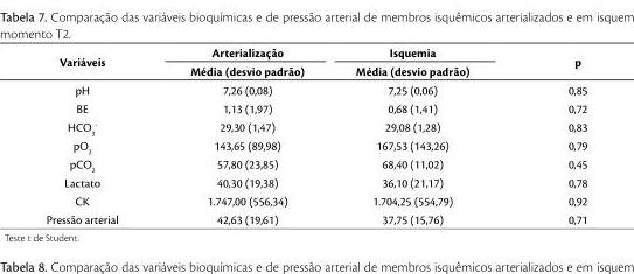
<table><thead><tr><td rowspan="2">Variáveis</td><td rowspan="2">Arterialização Média (desvio padrão)</td><td rowspan="2">Isquemia Média (desvio padrão)</td><td rowspan="2">p</td></tr><tr></tr></thead><tbody><tr><td>pH</td><td>7,26 (0,08)</td><td>7,25 (0,06)</td><td>0,85</td></tr><tr><td>BE</td><td>1,13 (1,97)</td><td>0,68 (1,41)</td><td>0,72</td></tr><tr><td>HCO<sub>3</sub> <sup>-</sup></td><td>29,30 (1,47)</td><td>29,08 (1,28)</td><td>0,83</td></tr><tr><td>pO<sub>2</sub></td><td>143,65 (89,98)</td><td>167,53 (143,26)</td><td>0,79</td></tr><tr><td>pCO<sub>2</sub></td><td>57,80 (23,85)</td><td>68,40 (11,02)</td><td>0,45</td></tr><tr><td>Lactato</td><td>40,30 (19,38)</td><td>36,10 (21,17)</td><td>0,78</td></tr><tr><td>CK</td><td>1.747,00 (556,34)</td><td>1.704,25 (554,79)</td><td>0,92</td></tr><tr><td>Pressão arterial</td><td>42,63 (19,61)</td><td>37,75 (15,76)</td><td>0,71</td></tr></tbody></table>